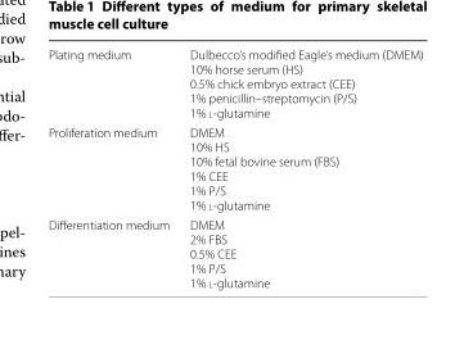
<table><tbody><tr><td>Plating medium</td><td>Dulbecco’s modified Eagle’s medium (DMEM) 10% horse serum (HS) 0.5% chick embryo extract (CEE) 1% penicillin–streptomycin (P/S) 1% l-glutamine</td></tr><tr><td>Proliferation medium</td><td>DMEM 10% HS 10% fetal bovine serum (FBS) 1% CEE 1% P/S 1% l-glutamine</td></tr><tr><td>Differentiation medium</td><td>DMEM 2% FBS 0.5% CEE 1% P/S 1% l-glutamine</td></tr></tbody></table>